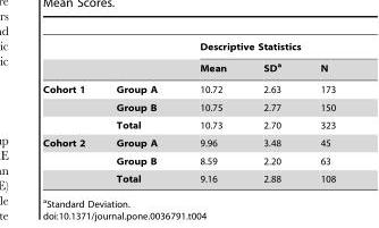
<table><thead><tr><td rowspan="2"></td><td rowspan="2"></td><td colspan="3">Descriptive Statistics</td></tr><tr><td>Mean</td><td>SD<sup>a</sup></td><td>N</td></tr></thead><tbody><tr><td rowspan="3">Cohort 1</td><td>Group A</td><td>10.72</td><td>2.63</td><td>173</td></tr><tr><td>Group B</td><td>10.75</td><td>2.77</td><td>150</td></tr><tr><td>Total</td><td>10.73</td><td>2.70</td><td>323</td></tr><tr><td rowspan="3">Cohort 2</td><td>Group A</td><td>9.96</td><td>3.48</td><td>45</td></tr><tr><td>Group B</td><td>8.59</td><td>2.20</td><td>63</td></tr><tr><td>Total</td><td>9.16</td><td>2.88</td><td>108</td></tr></tbody></table>